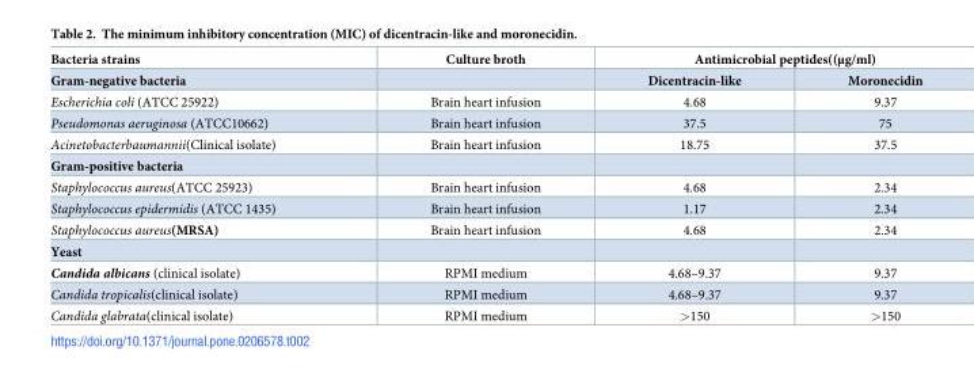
<table><thead><tr><td rowspan="2">Bacteria strains Gram-negative bacteria</td><td rowspan="2">Culture broth</td><td colspan="2">Antimicrobial peptides((μg/ml)</td></tr><tr><td>Dicentracin-like</td><td>Moronecidin</td></tr></thead><tbody><tr><td>Escherichia coli (ATCC 25922)</td><td>Brain heart infusion</td><td>4.68</td><td>9.37</td></tr><tr><td>Pseudomonas aeruginosa (ATCC10662)</td><td>Brain heart infusion</td><td>37.5</td><td>75</td></tr><tr><td>Acinetobacterbaumannii(Clinical isolate)</td><td>Brain heart infusion</td><td>18.75</td><td>37.5</td></tr><tr><td colspan="4">Gram-positive bacteria</td></tr><tr><td>Staphylococcus aureus(ATCC 25923)</td><td>Brain heart infusion</td><td>4.68</td><td>2.34</td></tr><tr><td>Staphylococcus epidermidis (ATCC 1435)</td><td>Brain heart infusion</td><td>1.17</td><td>2.34</td></tr><tr><td>Staphylococcus aureus(MRSA)</td><td>Brain heart infusion</td><td>4.68</td><td>2.34</td></tr><tr><td colspan="4">Yeast</td></tr><tr><td>Candida albicans (clinical isolate)</td><td>RPMI medium</td><td>4.68–9.37</td><td>9.37</td></tr><tr><td>Candida tropicalis(clinical isolate)</td><td>RPMI medium</td><td>4.68–9.37</td><td>9.37</td></tr><tr><td>Candida glabrata(clinical isolate)</td><td>RPMI medium</td><td>&gt;150</td><td>&gt;150</td></tr></tbody></table>